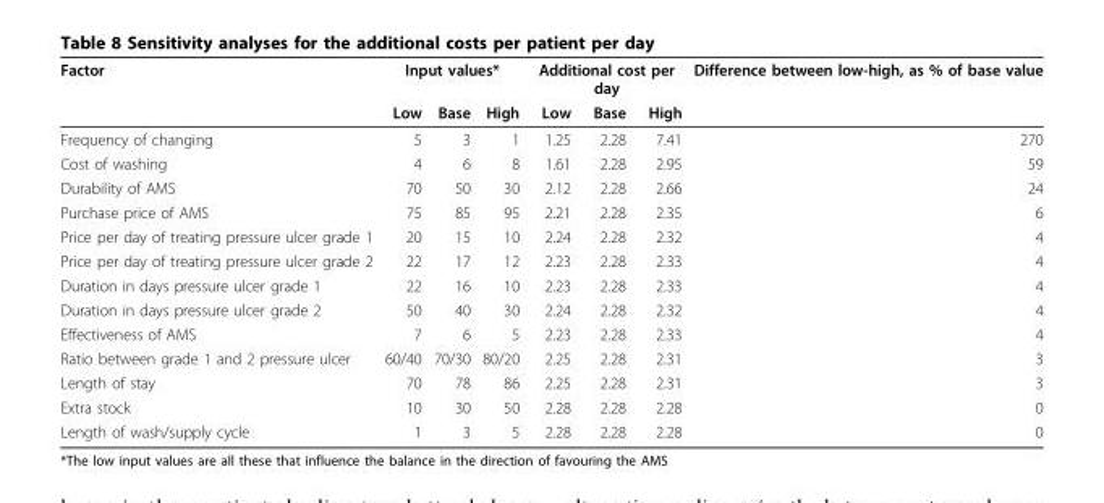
<table><thead><tr><td rowspan="2">Factor</td><td colspan="3">Input values*</td><td colspan="3">Additional cost per day</td><td rowspan="2">Difference between low-high, as % of base value</td></tr><tr><td>Low</td><td>Base</td><td>High</td><td>Low</td><td>Base</td><td>High</td></tr></thead><tbody><tr><td>Frequency of changing</td><td>5</td><td>3</td><td>1</td><td>1.25</td><td>2.28</td><td>7.41</td><td>270</td></tr><tr><td>Cost of washing</td><td>4</td><td>6</td><td>8</td><td>1.61</td><td>2.28</td><td>2.95</td><td>59</td></tr><tr><td>Durability of AMS</td><td>70</td><td>50</td><td>30</td><td>2.12</td><td>2.28</td><td>2.66</td><td>24</td></tr><tr><td>Purchase price of AMS</td><td>75</td><td>85</td><td>95</td><td>2.21</td><td>2.28</td><td>2.35</td><td>6</td></tr><tr><td>Price per day of treating pressure ulcer grade 1</td><td>20</td><td>15</td><td>10</td><td>2.24</td><td>2.28</td><td>2.32</td><td>4</td></tr><tr><td>Price per day of treating pressure ulcer grade 2</td><td>22</td><td>17</td><td>12</td><td>2.23</td><td>2.28</td><td>2.33</td><td>4</td></tr><tr><td>Duration in days pressure ulcer grade 1</td><td>22</td><td>16</td><td>10</td><td>2.23</td><td>2.28</td><td>2.33</td><td>4</td></tr><tr><td>Duration in days pressure ulcer grade 2</td><td>50</td><td>40</td><td>30</td><td>2.24</td><td>2.28</td><td>2.32</td><td>4</td></tr><tr><td>Effectiveness of AMS</td><td>7</td><td>6</td><td>5</td><td>2.23</td><td>2.28</td><td>2.33</td><td>4</td></tr><tr><td>Ratio between grade 1 and 2 pressure ulcer</td><td>60/40</td><td>70/30</td><td>80/20</td><td>2.25</td><td>2.28</td><td>2.31</td><td>3</td></tr><tr><td>Length of stay</td><td>70</td><td>78</td><td>86</td><td>2.25</td><td>2.28</td><td>2.31</td><td>3</td></tr><tr><td>Extra stock</td><td>10</td><td>30</td><td>50</td><td>2.28</td><td>2.28</td><td>2.28</td><td>0</td></tr><tr><td>Length of wash/supply cycle</td><td>1</td><td>3</td><td>5</td><td>2.28</td><td>2.28</td><td>2.28</td><td>0</td></tr></tbody></table>